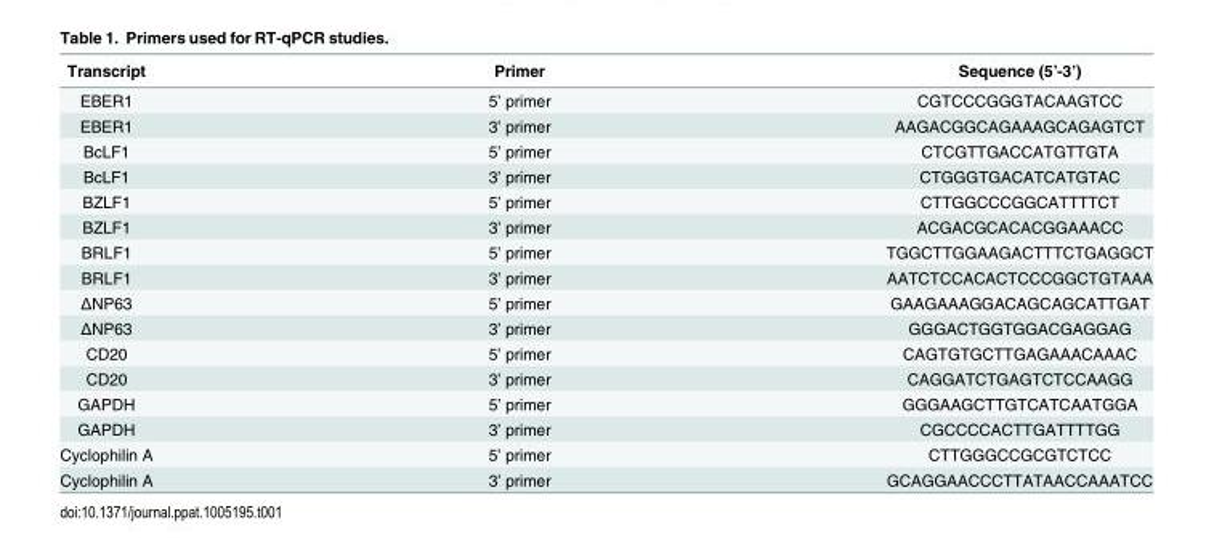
<table><thead><tr><td>Transcript</td><td>Primer</td><td>Sequence (5’-3’)</td></tr></thead><tbody><tr><td>EBER1</td><td>5’ primer</td><td>CGTCCCGGGTACAAGTCC</td></tr><tr><td>EBER1</td><td>3’ primer</td><td>AAGACGGCAGAAAGCAGAGTCT</td></tr><tr><td>BcLF1</td><td>5’ primer</td><td>CTCGTTGACCATGTTGTA</td></tr><tr><td>BcLF1</td><td>3’ primer</td><td>CTGGGTGACATCATGTAC</td></tr><tr><td>BZLF1</td><td>5’ primer</td><td>CTTGGCCCGGCATTTTCT</td></tr><tr><td>BZLF1</td><td>3’ primer</td><td>ACGACGCACACGGAAACC</td></tr><tr><td>BRLF1</td><td>5’ primer</td><td>TGGCTTGGAAGACTTTCTGAGGCT</td></tr><tr><td>BRLF1</td><td>3’ primer</td><td>AATCTCCACACTCCCGGCTGTAAA</td></tr><tr><td>ΔNP63</td><td>5’ primer</td><td>GAAGAAAGGACAGCAGCATTGAT</td></tr><tr><td>ΔNP63</td><td>3’ primer</td><td>GGGACTGGTGGACGAGGAG</td></tr><tr><td>CD20</td><td>5’ primer</td><td>CAGTGTGCTTGAGAAACAAAC</td></tr><tr><td>CD20</td><td>3’ primer</td><td>CAGGATCTGAGTCTCCAAGG</td></tr><tr><td>GAPDH</td><td>5’ primer</td><td>GGGAAGCTTGTCATCAATGGA</td></tr><tr><td>GAPDH</td><td>3’ primer</td><td>CGCCCCACTTGATTTTGG</td></tr><tr><td>Cyclophilin A</td><td>5’ primer</td><td>CTTGGGCCGCGTCTCC</td></tr><tr><td>Cyclophilin A</td><td>3’ primer</td><td>GCAGGAACCCTTATAACCAAATCC</td></tr></tbody></table>